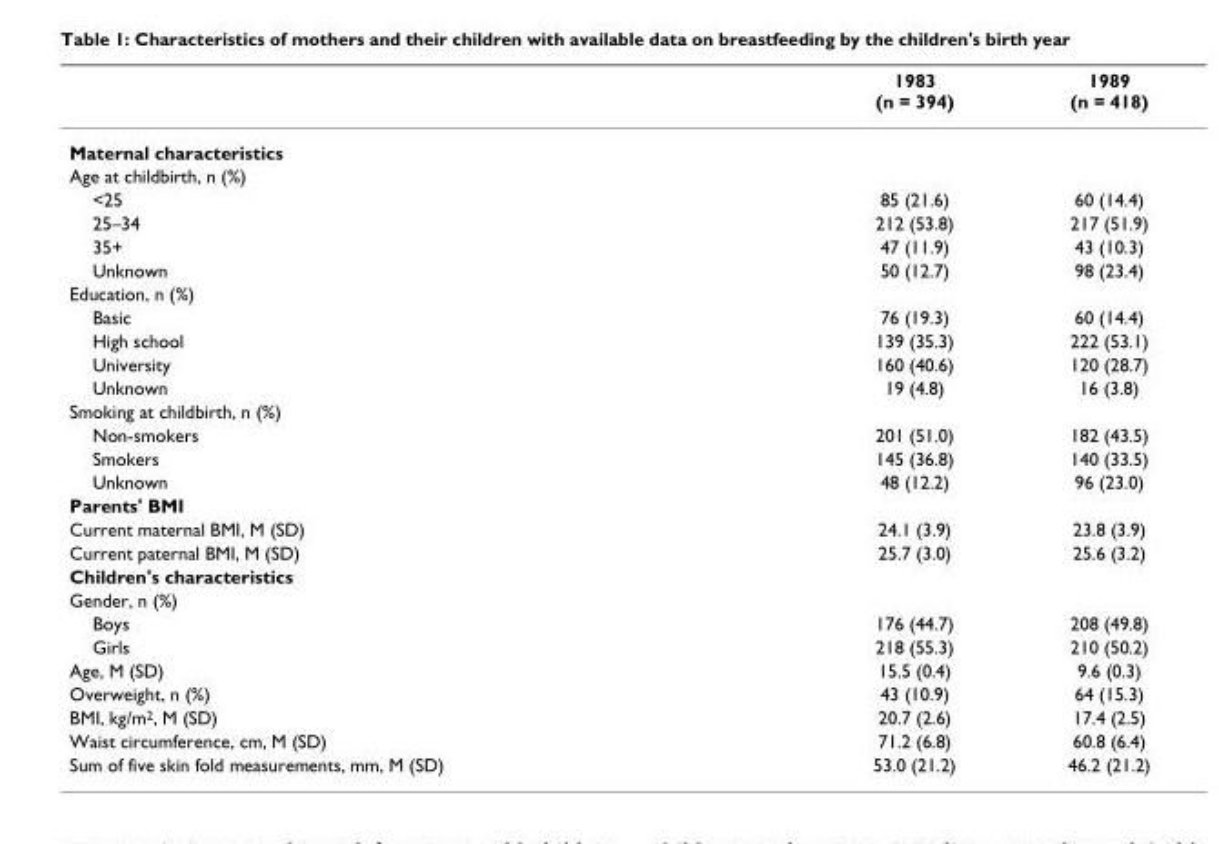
<table><thead><tr><td></td><td>1983 (n = 394)</td><td>1989 (n = 418)</td></tr></thead><tbody><tr><td colspan="3">Maternal characteristics</td></tr><tr><td colspan="3">Age at childbirth, n (%)</td></tr><tr><td>&lt;25</td><td>85 (21.6)</td><td>60 (14.4)</td></tr><tr><td>25–34</td><td>212 (53.8)</td><td>217 (51.9)</td></tr><tr><td>35+</td><td>47 (11.9)</td><td>43 (10.3)</td></tr><tr><td>Unknown</td><td>50 (12.7)</td><td>98 (23.4)</td></tr><tr><td colspan="3">Education, n (%)</td></tr><tr><td>Basic</td><td>76 (19.3)</td><td>60 (14.4)</td></tr><tr><td>High school</td><td>139 (35.3)</td><td>222 (53.1)</td></tr><tr><td>University</td><td>160 (40.6)</td><td>120 (28.7)</td></tr><tr><td>Unknown</td><td>19 (4.8)</td><td>16 (3.8)</td></tr><tr><td colspan="3">Smoking at childbirth, n (%)</td></tr><tr><td>Non-smokers</td><td>201 (51.0)</td><td>182 (43.5)</td></tr><tr><td>Smokers</td><td>145 (36.8)</td><td>140 (33.5)</td></tr><tr><td>Unknown</td><td>48 (12.2)</td><td>96 (23.0)</td></tr><tr><td colspan="3">Parents&#x27; BMI</td></tr><tr><td>Current maternal BMI, M (SD)</td><td>24.1 (3.9)</td><td>23.8 (3.9)</td></tr><tr><td>Current paternal BMI, M (SD)</td><td>25.7 (3.0)</td><td>25.6 (3.2)</td></tr><tr><td colspan="3">Children&#x27;s characteristics</td></tr><tr><td colspan="3">Gender, n (%)</td></tr><tr><td>Boys</td><td>176 (44.7)</td><td>208 (49.8)</td></tr><tr><td>Girls</td><td>218 (55.3)</td><td>210 (50.2)</td></tr><tr><td>Age, M (SD)</td><td>15.5 (0.4)</td><td>9.6 (0.3)</td></tr><tr><td>Overweight, n (%)</td><td>43 (10.9)</td><td>64 (15.3)</td></tr><tr><td>BMI, kg/m<sup>2</sup>, M (SD)</td><td>20.7 (2.6)</td><td>17.4 (2.5)</td></tr><tr><td>Waist circumference, cm, M (SD)</td><td>71.2 (6.8)</td><td>60.8 (6.4)</td></tr><tr><td>Sum of five skin fold measurements, mm, M (SD)</td><td>53.0 (21.2)</td><td>46.2 (21.2)</td></tr></tbody></table>